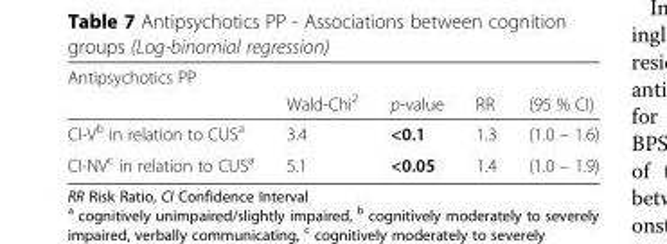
<table><thead><tr><td colspan="5">Antipsychotics PP</td></tr><tr><td></td><td>Wald-Chi<sup>2</sup></td><td>p-value</td><td>RR</td><td>(95 % CI)</td></tr></thead><tbody><tr><td>CI-V<sup>b</sup> in relation to CUS<sup>a</sup></td><td>3.4</td><td>&lt;0.1</td><td>1.3</td><td>(1.0 – 1.6)</td></tr><tr><td>CI-NV<sup>c</sup> in relation to CUS<sup>a</sup></td><td>5.1</td><td>&lt;0.05</td><td>1.4</td><td>(1.0 – 1.9)</td></tr></tbody></table>